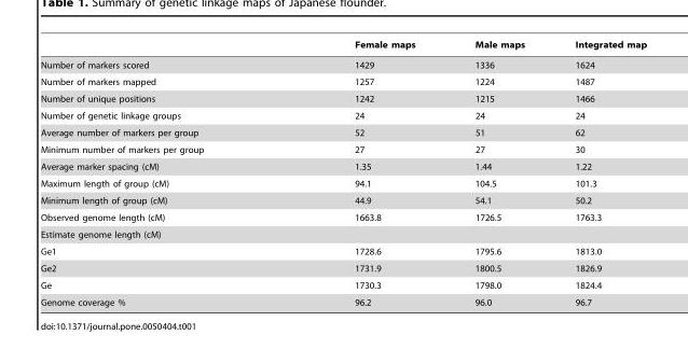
<table><thead><tr><td></td><td>Female maps</td><td>Male maps</td><td>Integrated map</td></tr></thead><tbody><tr><td>Number of markers scored</td><td>1429</td><td>1336</td><td>1624</td></tr><tr><td>Number of markers mapped</td><td>1257</td><td>1224</td><td>1487</td></tr><tr><td>Number of unique positions</td><td>1242</td><td>1215</td><td>1466</td></tr><tr><td>Number of genetic linkage groups</td><td>24</td><td>24</td><td>24</td></tr><tr><td>Average number of markers per group</td><td>52</td><td>51</td><td>62</td></tr><tr><td>Minimum number of markers per group</td><td>27</td><td>27</td><td>30</td></tr><tr><td>Average marker spacing (cM)</td><td>1.35</td><td>1.44</td><td>1.22</td></tr><tr><td>Maximum length of group (cM)</td><td>94.1</td><td>104.5</td><td>101.3</td></tr><tr><td>Minimum length of group (cM)</td><td>44.9</td><td>54.1</td><td>50.2</td></tr><tr><td>Observed genome length (cM)</td><td>1663.8</td><td>1726.5</td><td>1763.3</td></tr><tr><td colspan="4">Estimate genome length (cM)</td></tr><tr><td>Ge1</td><td>1728.6</td><td>1795.6</td><td>1813.0</td></tr><tr><td>Ge2</td><td>1731.9</td><td>1800.5</td><td>1826.9</td></tr><tr><td>Ge</td><td>1730.3</td><td>1798.0</td><td>1824.4</td></tr><tr><td>Genome coverage %</td><td>96.2</td><td>96.0</td><td>96.7</td></tr></tbody></table>